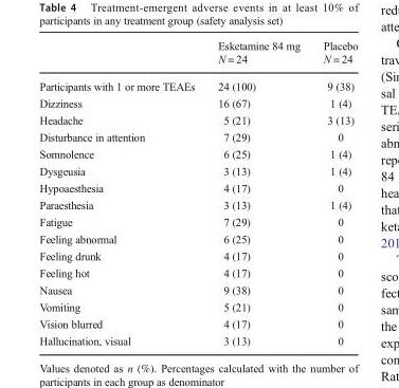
<table><thead><tr><td></td><td>Esketamine 84 mg N = 24</td><td>Placebo N = 24</td></tr></thead><tbody><tr><td>Participants with 1 or more TEAEs</td><td>24 (100)</td><td>9 (38)</td></tr><tr><td>Dizziness</td><td>16 (67)</td><td>1 (4)</td></tr><tr><td>Headache</td><td>5 (21)</td><td>3 (13)</td></tr><tr><td>Disturbance in attention</td><td>7 (29)</td><td>0</td></tr><tr><td>Somnolence</td><td>6 (25)</td><td>1 (4)</td></tr><tr><td>Dysgeusia</td><td>3 (13)</td><td>1 (4)</td></tr><tr><td>Hypoaesthesia</td><td>4 (17)</td><td>0</td></tr><tr><td>Paraesthesia</td><td>3 (13)</td><td>1 (4)</td></tr><tr><td>Fatigue</td><td>7 (29)</td><td>0</td></tr><tr><td>Feeling abnormal</td><td>6 (25)</td><td>0</td></tr><tr><td>Feeling drunk</td><td>4 (17)</td><td>0</td></tr><tr><td>Feeling hot</td><td>4 (17)</td><td>0</td></tr><tr><td>Nausea</td><td>9 (38)</td><td>0</td></tr><tr><td>Vomiting</td><td>5 (21)</td><td>0</td></tr><tr><td>Vision blurred</td><td>4 (17)</td><td>0</td></tr><tr><td>Hallucination, visual</td><td>3 (13)</td><td>0</td></tr></tbody></table>